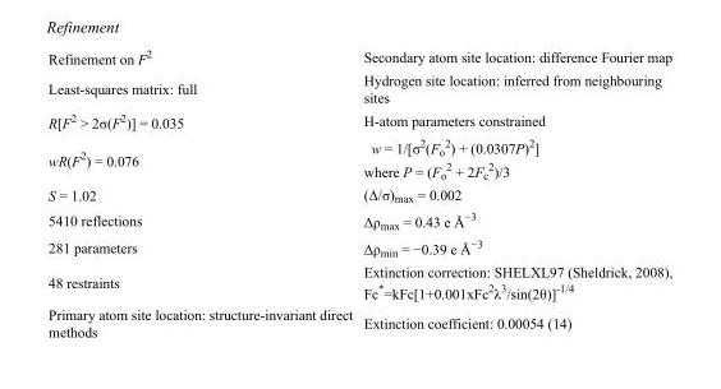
<table><tbody><tr><td>Refinement on F<sup>2</sup></td><td>Secondary atom site location: difference Fourier map</td></tr><tr><td>Least-squares matrix: full</td><td>Hydrogen site location: inferred from neighbouring sites</td></tr><tr><td>R[F<sup>2</sup> &gt; 2σ(F<sup>2</sup>)] = 0.035</td><td>H-atom parameters constrained</td></tr><tr><td>wR(F<sup>2</sup>) = 0.076</td><td>w = 1/[σ<sup>2</sup>(F<sub>o</sub> <sup>2</sup>) + (0.0307P)<sup>2</sup>] where P = (F<sub>o</sub> <sup>2</sup> + 2F<sub>c</sub> <sup>2</sup>)/3</td></tr><tr><td>S = 1.02</td><td>(Δ/σ)<sub>max</sub> = 0.002</td></tr><tr><td>5410 reflections</td><td>Δρ<sub>max</sub> = 0.43 e Å<sup>−3</sup></td></tr><tr><td>281 parameters</td><td>Δρ<sub>min</sub> = −0.39 e Å<sup>−3</sup></td></tr><tr><td>48 restraints</td><td>Extinction correction: SHELXL97 (Sheldrick, 2008), Fc*=kFc[1+0.001xFc<sup>2</sup>λ<sup>3</sup>/sin(2θ)]<sup>-1/4</sup></td></tr><tr><td>Primary atom site location: structure-invariant direct methods</td><td>Extinction coefficient: 0.00054 (14)</td></tr></tbody></table>